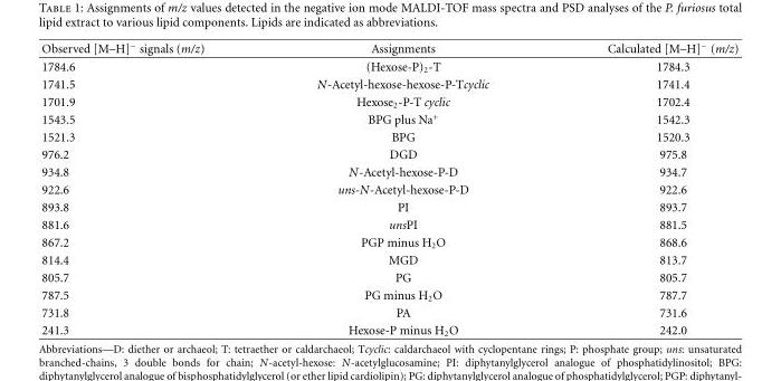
<table><thead><tr><td>Observed [M–H]<sup>−</sup> signals (m/z)</td><td>Assignments</td><td>Calculated [M–H]<sup>−</sup> (m/z)</td></tr></thead><tbody><tr><td>1784.6</td><td>(Hexose-P)<sub>2</sub>-T</td><td>1784.3</td></tr><tr><td>1741.5</td><td>N-Acetyl-hexose-hexose-P-Tcyclic</td><td>1741.4</td></tr><tr><td>1701.9</td><td>Hexose<sub>2</sub>-P-T cyclic</td><td>1702.4</td></tr><tr><td>1543.5</td><td>BPG plus Na<sup>+</sup></td><td>1542.3</td></tr><tr><td>1521.3</td><td>BPG</td><td>1520.3</td></tr><tr><td>976.2</td><td>DGD</td><td>975.8</td></tr><tr><td>934.8</td><td>N-Acetyl-hexose-P-D</td><td>934.7</td></tr><tr><td>922.6</td><td>uns-N-Acetyl-hexose-P-D</td><td>922.6</td></tr><tr><td>893.8</td><td>PI</td><td>893.7</td></tr><tr><td>881.6</td><td>unsPI</td><td>881.5</td></tr><tr><td>867.2</td><td>PGP minus H<sub>2</sub>O</td><td>868.6</td></tr><tr><td>814.4</td><td>MGD</td><td>813.7</td></tr><tr><td>805.7</td><td>PG</td><td>805.7</td></tr><tr><td>787.5</td><td>PG minus H<sub>2</sub>O</td><td>787.7</td></tr><tr><td>731.8</td><td>PA</td><td>731.6</td></tr><tr><td>241.3</td><td>Hexose-P minus H<sub>2</sub>O</td><td>242.0</td></tr></tbody></table>